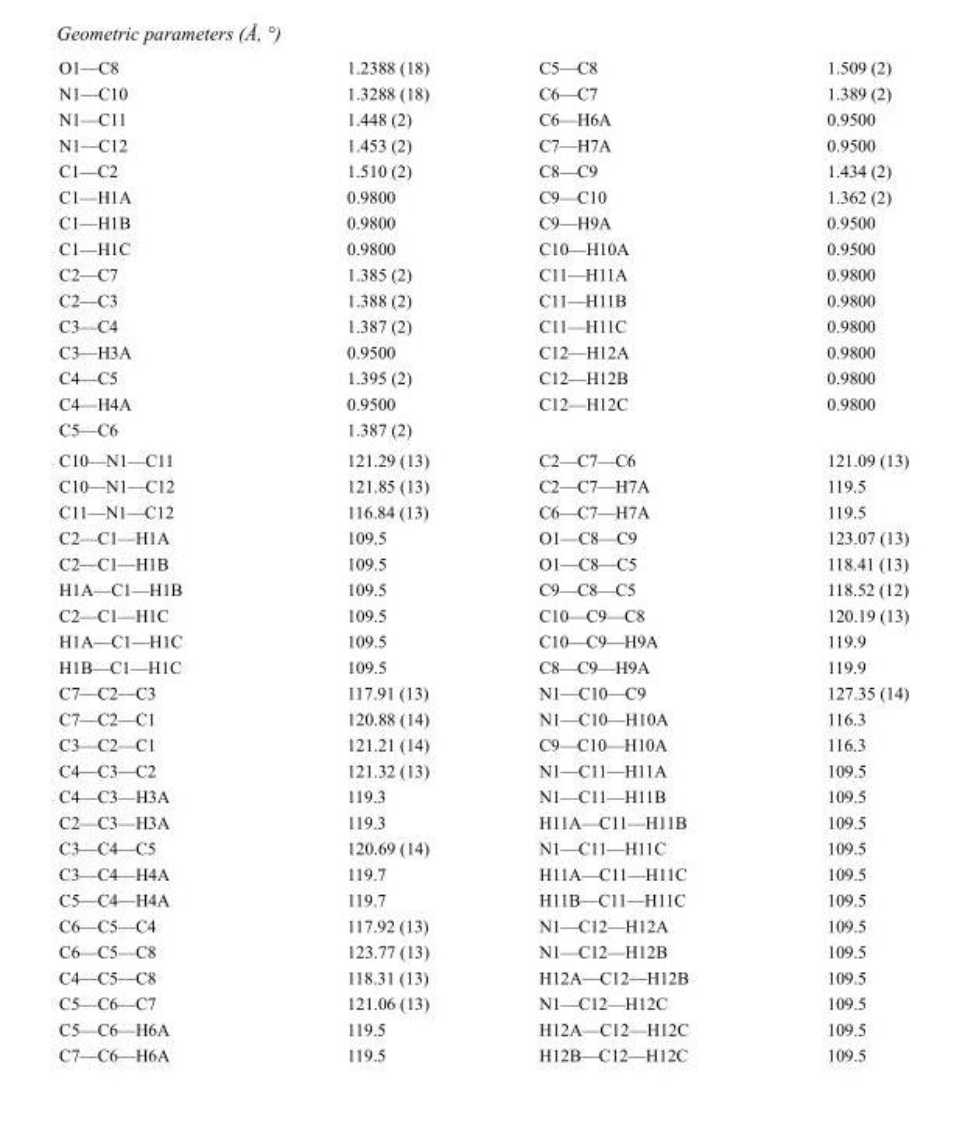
<table><tbody><tr><td>O1—C8</td><td>1.2388 (18)</td><td>C5—C8</td><td>1.509 (2)</td></tr><tr><td>N1—C10</td><td>1.3288 (18)</td><td>C6—C7</td><td>1.389 (2)</td></tr><tr><td>N1—C11</td><td>1.448 (2)</td><td>C6—H6A</td><td>0.9500</td></tr><tr><td>N1—C12</td><td>1.453 (2)</td><td>C7—H7A</td><td>0.9500</td></tr><tr><td>C1—C2</td><td>1.510 (2)</td><td>C8—C9</td><td>1.434 (2)</td></tr><tr><td>C1—H1A</td><td>0.9800</td><td>C9—C10</td><td>1.362 (2)</td></tr><tr><td>C1—H1B</td><td>0.9800</td><td>C9—H9A</td><td>0.9500</td></tr><tr><td>C1—H1C</td><td>0.9800</td><td>C10—H10A</td><td>0.9500</td></tr><tr><td>C2—C7</td><td>1.385 (2)</td><td>C11—H11A</td><td>0.9800</td></tr><tr><td>C2—C3</td><td>1.388 (2)</td><td>C11—H11B</td><td>0.9800</td></tr><tr><td>C3—C4</td><td>1.387 (2)</td><td>C11—H11C</td><td>0.9800</td></tr><tr><td>C3—H3A</td><td>0.9500</td><td>C12—H12A</td><td>0.9800</td></tr><tr><td>C4—C5</td><td>1.395 (2)</td><td>C12—H12B</td><td>0.9800</td></tr><tr><td>C4—H4A</td><td>0.9500</td><td>C12—H12C</td><td>0.9800</td></tr><tr><td>C5—C6</td><td>1.387 (2)</td><td></td><td></td></tr><tr><td>C10—N1—C11</td><td>121.29 (13)</td><td>C2—C7—C6</td><td>121.09 (13)</td></tr><tr><td>C10—N1—C12</td><td>121.85 (13)</td><td>C2—C7—H7A</td><td>119.5</td></tr><tr><td>C11—N1—C12</td><td>116.84 (13)</td><td>C6—C7—H7A</td><td>119.5</td></tr><tr><td>C2—C1—H1A</td><td>109.5</td><td>O1—C8—C9</td><td>123.07 (13)</td></tr><tr><td>C2—C1—H1B</td><td>109.5</td><td>O1—C8—C5</td><td>118.41 (13)</td></tr><tr><td>H1A—C1—H1B</td><td>109.5</td><td>C9—C8—C5</td><td>118.52 (12)</td></tr><tr><td>C2—C1—H1C</td><td>109.5</td><td>C10—C9—C8</td><td>120.19 (13)</td></tr><tr><td>H1A—C1—H1C</td><td>109.5</td><td>C10—C9—H9A</td><td>119.9</td></tr><tr><td>H1B—C1—H1C</td><td>109.5</td><td>C8—C9—H9A</td><td>119.9</td></tr><tr><td>C7—C2—C3</td><td>117.91 (13)</td><td>N1—C10—C9</td><td>127.35 (14)</td></tr><tr><td>C7—C2—C1</td><td>120.88 (14)</td><td>N1—C10—H10A</td><td>116.3</td></tr><tr><td>C3—C2—C1</td><td>121.21 (14)</td><td>C9—C10—H10A</td><td>116.3</td></tr><tr><td>C4—C3—C2</td><td>121.32 (13)</td><td>N1—C11—H11A</td><td>109.5</td></tr><tr><td>C4—C3—H3A</td><td>119.3</td><td>N1—C11—H11B</td><td>109.5</td></tr><tr><td>C2—C3—H3A</td><td>119.3</td><td>H11A—C11—H11B</td><td>109.5</td></tr><tr><td>C3—C4—C5</td><td>120.69 (14)</td><td>N1—C11—H11C</td><td>109.5</td></tr><tr><td>C3—C4—H4A</td><td>119.7</td><td>H11A—C11—H11C</td><td>109.5</td></tr><tr><td>C5—C4—H4A</td><td>119.7</td><td>H11B—C11—H11C</td><td>109.5</td></tr><tr><td>C6—C5—C4</td><td>117.92 (13)</td><td>N1—C12—H12A</td><td>109.5</td></tr><tr><td>C6—C5—C8</td><td>123.77 (13)</td><td>N1—C12—H12B</td><td>109.5</td></tr><tr><td>C4—C5—C8</td><td>118.31 (13)</td><td>H12A—C12—H12B</td><td>109.5</td></tr><tr><td>C5—C6—C7</td><td>121.06 (13)</td><td>N1—C12—H12C</td><td>109.5</td></tr><tr><td>C5—C6—H6A</td><td>119.5</td><td>H12A—C12—H12C</td><td>109.5</td></tr><tr><td>C7—C6—H6A</td><td>119.5</td><td>H12B—C12—H12C</td><td>109.5</td></tr></tbody></table>